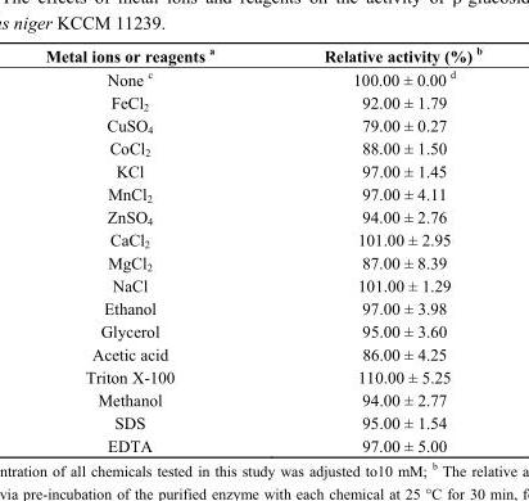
<table><thead><tr><td>Metal ions or reagents a</td><td>Relative activity (%) b</td></tr></thead><tbody><tr><td>None c</td><td>100.00 ± 0.00 d</td></tr><tr><td>FeCl<sub>2</sub></td><td>92.00 ± 1.79</td></tr><tr><td>CuSO<sub>4</sub></td><td>79.00 ± 0.27</td></tr><tr><td>CoCl<sub>2</sub></td><td>88.00 ± 1.50</td></tr><tr><td>KCl</td><td>97.00 ± 1.45</td></tr><tr><td>MnCl<sub>2</sub></td><td>97.00 ± 4.11</td></tr><tr><td>ZnSO<sub>4</sub></td><td>94.00 ± 2.76</td></tr><tr><td>CaCl<sub>2</sub></td><td>101.00 ± 2.95</td></tr><tr><td>MgCl<sub>2</sub></td><td>87.00 ± 8.39</td></tr><tr><td>NaCl</td><td>101.00 ± 1.29</td></tr><tr><td>Ethanol</td><td>97.00 ± 3.98</td></tr><tr><td>Glycerol</td><td>95.00 ± 3.60</td></tr><tr><td>Acetic acid</td><td>86.00 ± 4.25</td></tr><tr><td>Triton X-100</td><td>110.00 ± 5.25</td></tr><tr><td>Methanol</td><td>94.00 ± 2.77</td></tr><tr><td>SDS</td><td>95.00 ± 1.54</td></tr><tr><td>EDTA</td><td>97.00 ± 5.00</td></tr></tbody></table>